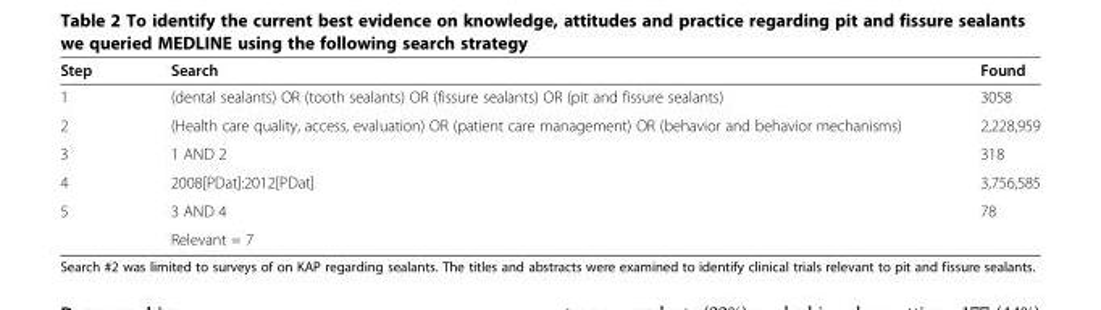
<table><thead><tr><td>Step</td><td>Search</td><td>Found</td></tr></thead><tbody><tr><td>1</td><td>(dental sealants) OR (tooth sealants) OR (fissure sealants) OR (pit and fissure sealants)</td><td>3058</td></tr><tr><td>2</td><td>(Health care quality, access, evaluation) OR (patient care management) OR (behavior and behavior mechanisms)</td><td>2,228,959</td></tr><tr><td>3</td><td>1 AND 2</td><td>318</td></tr><tr><td>4</td><td>2008[PDat]:2012[PDat]</td><td>3,756,585</td></tr><tr><td rowspan="2">5</td><td>3 AND 4</td><td>78</td></tr><tr><td>Relevant = 7</td><td></td></tr></tbody></table>